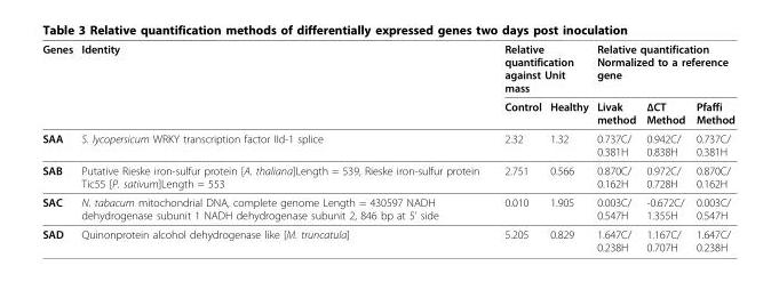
<table><thead><tr><td rowspan="2">Genes</td><td rowspan="2">Identity</td><td colspan="2">Relative quantification against Unit mass</td><td colspan="3">Relative quantification Normalized to a reference gene</td></tr><tr><td>Control</td><td>Healthy</td><td>Livak method</td><td>ΔCT Method</td><td>Pfaffi Method</td></tr></thead><tbody><tr><td>SAA</td><td>S. lycopersicum WRKY transcription factor IId-1 splice</td><td>2.32</td><td>1.32</td><td>0.737C/ 0.381H</td><td>0.942C/ 0.838H</td><td>0.737C/ 0.381H</td></tr><tr><td>SAB</td><td>Putative Rieske iron-sulfur protein [A. thaliana]Length = 539, Rieske iron-sulfur protein Tic55 [P. sativum]Length = 553</td><td>2.751</td><td>0.566</td><td>0.870C/ 0.162H</td><td>0.972C/ 0.728H</td><td>0.870C/ 0.162H</td></tr><tr><td>SAC</td><td>N. tabacum mitochondrial DNA, complete genome Length = 430597 NADH dehydrogenase subunit 1 NADH dehydrogenase subunit 2, 846 bp at 5’ side</td><td>0.010</td><td>1.905</td><td>0.003C/ 0.547H</td><td>-0.672C/ 1.355H</td><td>0.003C/ 0.547H</td></tr><tr><td>SAD</td><td>Quinonprotein alcohol dehydrogenase like [M. truncatula]</td><td>5.205</td><td>0.829</td><td>1.647C/ 0.238H</td><td>1.167C/ 0.707H</td><td>1.647C/ 0.238H</td></tr></tbody></table>